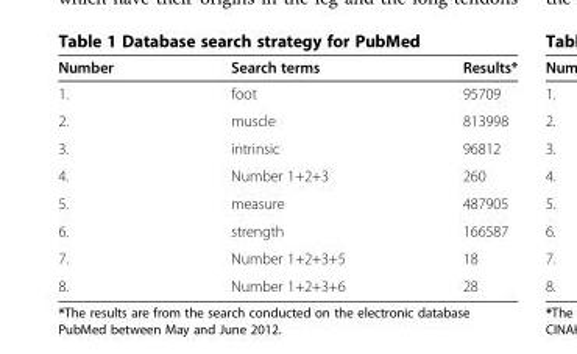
<table><thead><tr><td>Number</td><td>Search terms</td><td>Results*</td></tr></thead><tbody><tr><td>1.</td><td>foot</td><td>95709</td></tr><tr><td>2.</td><td>muscle</td><td>813998</td></tr><tr><td>3.</td><td>intrinsic</td><td>96812</td></tr><tr><td>4.</td><td>Number 1+2+3</td><td>260</td></tr><tr><td>5.</td><td>measure</td><td>487905</td></tr><tr><td>6.</td><td>strength</td><td>166587</td></tr><tr><td>7.</td><td>Number 1+2+3+5</td><td>18</td></tr><tr><td>8.</td><td>Number 1+2+3+6</td><td>28</td></tr></tbody></table>